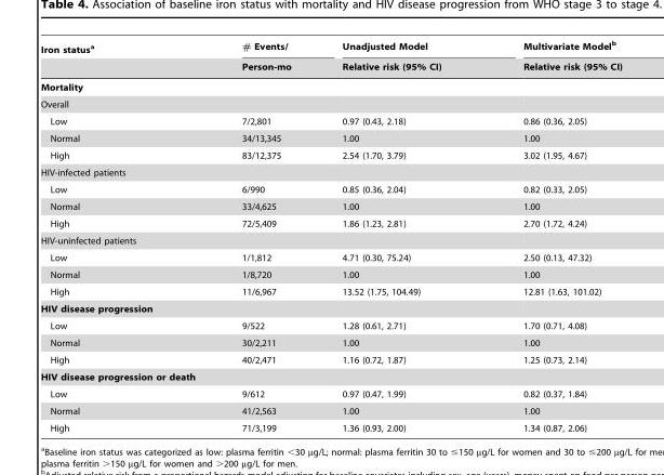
<table><thead><tr><td rowspan="2">Iron status<sup>a</sup></td><td rowspan="2"># Events/ Person-mo</td><td rowspan="2">Unadjusted Model Relative risk (95% CI)</td><td rowspan="2">Multivariate Model<sup>b</sup> Relative risk (95% CI)</td></tr><tr></tr></thead><tbody><tr><td colspan="4">Mortality</td></tr><tr><td colspan="4">Overall</td></tr><tr><td>Low</td><td>7/2,801</td><td>0.97 (0.43, 2.18)</td><td>0.86 (0.36, 2.05)</td></tr><tr><td>Normal</td><td>34/13,345</td><td>1.00</td><td>1.00</td></tr><tr><td>High</td><td>83/12,375</td><td>2.54 (1.70, 3.79)</td><td>3.02 (1.95, 4.67)</td></tr><tr><td colspan="4">HIV-infected patients</td></tr><tr><td>Low</td><td>6/990</td><td>0.85 (0.36, 2.04)</td><td>0.82 (0.33, 2.05)</td></tr><tr><td>Normal</td><td>33/4,625</td><td>1.00</td><td>1.00</td></tr><tr><td>High</td><td>72/5,409</td><td>1.86 (1.23, 2.81)</td><td>2.70 (1.72, 4.24)</td></tr><tr><td colspan="4">HIV-uninfected patients</td></tr><tr><td>Low</td><td>1/1,812</td><td>4.71 (0.30, 75.24)</td><td>2.50 (0.13, 47.32)</td></tr><tr><td>Normal</td><td>1/8,720</td><td>1.00</td><td>1.00</td></tr><tr><td>High</td><td>11/6,967</td><td>13.52 (1.75, 104.49)</td><td>12.81 (1.63, 101.02)</td></tr><tr><td colspan="4">HIV disease progression</td></tr><tr><td>Low</td><td>9/522</td><td>1.28 (0.61, 2.71)</td><td>1.70 (0.71, 4.08)</td></tr><tr><td>Normal</td><td>30/2,211</td><td>1.00</td><td>1.00</td></tr><tr><td>High</td><td>40/2,471</td><td>1.16 (0.72, 1.87)</td><td>1.25 (0.73, 2.14)</td></tr><tr><td colspan="4">HIV disease progression or death</td></tr><tr><td>Low</td><td>9/612</td><td>0.97 (0.47, 1.99)</td><td>0.82 (0.37, 1.84)</td></tr><tr><td>Normal</td><td>41/2,563</td><td>1.00</td><td>1.00</td></tr><tr><td>High</td><td>71/3,199</td><td>1.36 (0.93, 2.00)</td><td>1.34 (0.87, 2.06)</td></tr></tbody></table>